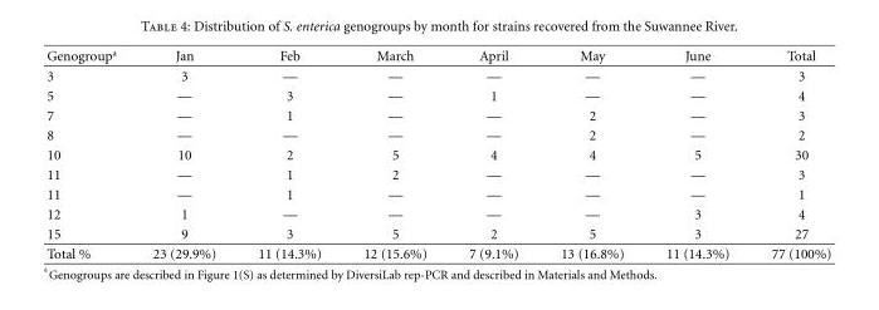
<table><thead><tr><td>Genogroup<sup>a</sup></td><td>Jan</td><td>Feb</td><td>March</td><td>April</td><td>May</td><td>June</td><td>Total</td></tr></thead><tbody><tr><td>3</td><td>3</td><td>—</td><td>—</td><td>—</td><td>—</td><td>—</td><td>3</td></tr><tr><td>5</td><td>—</td><td>3</td><td>—</td><td>1</td><td>—</td><td>—</td><td>4</td></tr><tr><td>7</td><td>—</td><td>1</td><td>—</td><td>—</td><td>2</td><td>—</td><td>3</td></tr><tr><td>8</td><td>—</td><td>—</td><td>—</td><td>—</td><td>2</td><td>—</td><td>2</td></tr><tr><td>10</td><td>10</td><td>2</td><td>5</td><td>4</td><td>4</td><td>5</td><td>30</td></tr><tr><td>11</td><td>—</td><td>1</td><td>2</td><td>—</td><td>—</td><td>—</td><td>3</td></tr><tr><td>11</td><td>—</td><td>1</td><td>—</td><td>—</td><td>—</td><td>—</td><td>1</td></tr><tr><td>12</td><td>1</td><td>—</td><td>—</td><td>—</td><td>—</td><td>3</td><td>4</td></tr><tr><td>15</td><td>9</td><td>3</td><td>5</td><td>2</td><td>5</td><td>3</td><td>27</td></tr><tr><td>Total %</td><td>23 (29.9%)</td><td>11 (14.3%)</td><td>12 (15.6%)</td><td>7 (9.1%)</td><td>13 (16.8%)</td><td>11 (14.3%)</td><td>77 (100%)</td></tr></tbody></table>